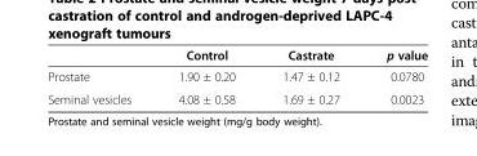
<table><thead><tr><td></td><td>Control</td><td>Castrate</td><td>p value</td></tr></thead><tbody><tr><td>Prostate</td><td>1.90 ± 0.20</td><td>1.47 ± 0.12</td><td>0.0780</td></tr><tr><td>Seminal vesicles</td><td>4.08 ± 0.58</td><td>1.69 ± 0.27</td><td>0.0023</td></tr></tbody></table>